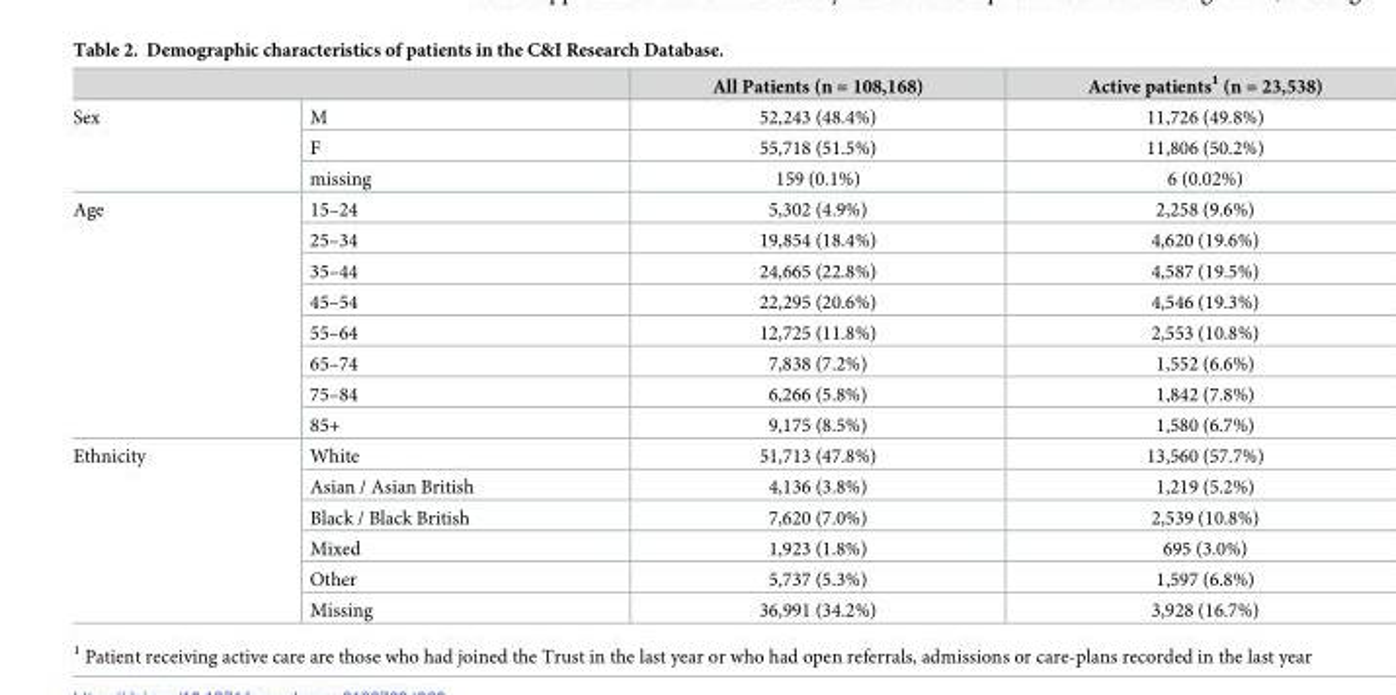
<table><thead><tr><td></td><td></td><td>All Patients (n = 108,168)</td><td>Active patients<sup>1</sup> (n = 23,538)</td></tr></thead><tbody><tr><td rowspan="3">Sex</td><td>M</td><td>52,243 (48.4%)</td><td>11,726 (49.8%)</td></tr><tr><td>F</td><td>55,718 (51.5%)</td><td>11,806 (50.2%)</td></tr><tr><td>missing</td><td>159 (0.1%)</td><td>6 (0.02%)</td></tr><tr><td rowspan="8">Age</td><td>15–24</td><td>5,302 (4.9%)</td><td>2,258 (9.6%)</td></tr><tr><td>25–34</td><td>19,854 (18.4%)</td><td>4,620 (19.6%)</td></tr><tr><td>35–44</td><td>24,665 (22.8%)</td><td>4,587 (19.5%)</td></tr><tr><td>45–54</td><td>22,295 (20.6%)</td><td>4,546 (19.3%)</td></tr><tr><td>55–64</td><td>12,725 (11.8%)</td><td>2,553 (10.8%)</td></tr><tr><td>65–74</td><td>7,838 (7.2%)</td><td>1,552 (6.6%)</td></tr><tr><td>75–84</td><td>6,266 (5.8%)</td><td>1,842 (7.8%)</td></tr><tr><td>85+</td><td>9,175 (8.5%)</td><td>1,580 (6.7%)</td></tr><tr><td rowspan="6">Ethnicity</td><td>White</td><td>51,713 (47.8%)</td><td>13,560 (57.7%)</td></tr><tr><td>Asian / Asian British</td><td>4,136 (3.8%)</td><td>1,219 (5.2%)</td></tr><tr><td>Black / Black British</td><td>7,620 (7.0%)</td><td>2,539 (10.8%)</td></tr><tr><td>Mixed</td><td>1,923 (1.8%)</td><td>695 (3.0%)</td></tr><tr><td>Other</td><td>5,737 (5.3%)</td><td>1,597 (6.8%)</td></tr><tr><td>Missing</td><td>36,991 (34.2%)</td><td>3,928 (16.7%)</td></tr></tbody></table>